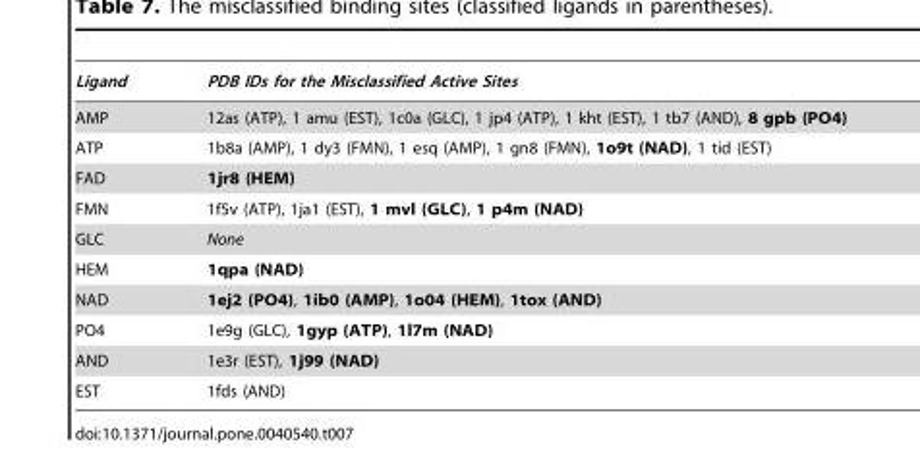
<table><thead><tr><td>Ligand</td><td>PDB IDs for the Misclassified Active Sites</td></tr></thead><tbody><tr><td>AMP</td><td>12as (ATP), 1 amu (EST), 1c0a (GLC), 1 jp4 (ATP), 1 kht (EST), 1 tb7 (AND), 8 gpb (PO4)</td></tr><tr><td>ATP</td><td>1b8a (AMP), 1 dy3 (FMN), 1 esq (AMP), 1 gn8 (FMN), 1o9t (NAD), 1 tid (EST)</td></tr><tr><td>FAD</td><td>1jr8 (HEM)</td></tr><tr><td>FMN</td><td>1f5v (ATP), 1ja1 (EST), 1 mvl (GLC), 1 p4m (NAD)</td></tr><tr><td>GLC</td><td>None</td></tr><tr><td>HEM</td><td>1qpa (NAD)</td></tr><tr><td>NAD</td><td>1ej2 (PO4), 1ib0 (AMP), 1o04 (HEM), 1tox (AND)</td></tr><tr><td>PO4</td><td>1e9g (GLC), 1gyp (ATP), 1l7m (NAD)</td></tr><tr><td>AND</td><td>1e3r (EST), 1j99 (NAD)</td></tr><tr><td>EST</td><td>1fds (AND)</td></tr></tbody></table>